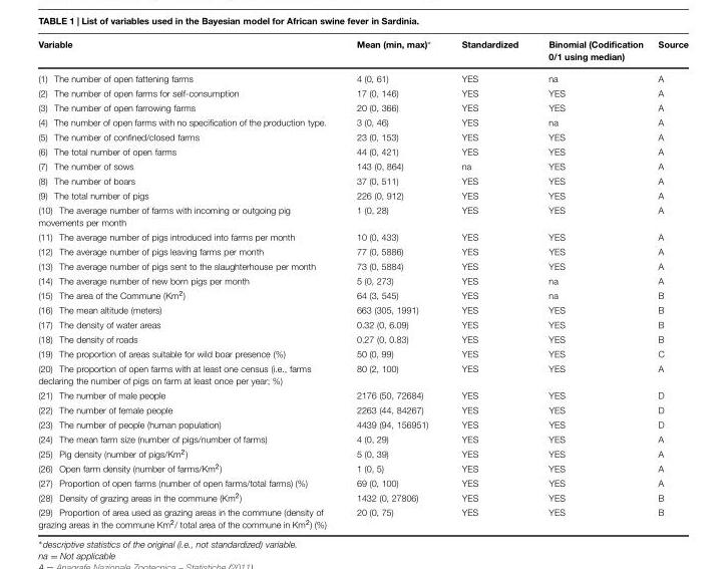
<table><thead><tr><td>Variable</td><td>Mean (min, max)∗</td><td>Standardized</td><td>Binomial (Codification 0/1 using median)</td><td>Source</td></tr></thead><tbody><tr><td>(1) The number of open fattening farms</td><td>4 (0, 61)</td><td>YES</td><td>na</td><td>A</td></tr><tr><td>(2) The number of open farms for self-consumption</td><td>17 (0, 146)</td><td>YES</td><td>YES</td><td>A</td></tr><tr><td>(3) The number of open farrowing farms</td><td>20 (0, 366)</td><td>YES</td><td>YES</td><td>A</td></tr><tr><td>(4) The number of open farms with no specification of the production type.</td><td>3 (0, 46)</td><td>YES</td><td>na</td><td>A</td></tr><tr><td>(5) The number of confined/closed farms</td><td>23 (0, 153)</td><td>YES</td><td>YES</td><td>A</td></tr><tr><td>(6) The total number of open farms</td><td>44 (0, 421)</td><td>YES</td><td>YES</td><td>A</td></tr><tr><td>(7) The number of sows</td><td>143 (0, 864)</td><td>na</td><td>YES</td><td>A</td></tr><tr><td>(8) The number of boars</td><td>37 (0, 511)</td><td>YES</td><td>YES</td><td>A</td></tr><tr><td>(9) The total number of pigs</td><td>226 (0, 912)</td><td>YES</td><td>YES</td><td>A</td></tr><tr><td>(10) The average number of farms with incoming or outgoing pig movements per month</td><td>1 (0, 28)</td><td>YES</td><td>YES</td><td>A</td></tr><tr><td>(11) The average number of pigs introduced into farms per month</td><td>10 (0, 433)</td><td>YES</td><td>YES</td><td>A</td></tr><tr><td>(12) The average number of pigs leaving farms per month</td><td>77 (0, 5886)</td><td>YES</td><td>YES</td><td>A</td></tr><tr><td>(13) The average number of pigs sent to the slaughterhouse per month</td><td>73 (0, 5884)</td><td>YES</td><td>YES</td><td>A</td></tr><tr><td>(14) The average number of new born pigs per month</td><td>5 (0, 273)</td><td>YES</td><td>na</td><td>A</td></tr><tr><td>(15) The area of the Commune (Km<sup>2</sup>)</td><td>64 (3, 545)</td><td>YES</td><td>na</td><td>B</td></tr><tr><td>(16) The mean altitude (meters)</td><td>663 (305, 1991)</td><td>YES</td><td>YES</td><td>B</td></tr><tr><td>(17) The density of water areas</td><td>0.32 (0, 6.09)</td><td>YES</td><td>YES</td><td>B</td></tr><tr><td>(18) The density of roads</td><td>0.27 (0, 0.83)</td><td>YES</td><td>YES</td><td>B</td></tr><tr><td>(19) The proportion of areas suitable for wild boar presence (%)</td><td>50 (0, 99)</td><td>YES</td><td>YES</td><td>C</td></tr><tr><td>(20) The proportion of open farms with at least one census (i.e., farms declaring the number of pigs on farm at least once per year; %)</td><td>80 (2, 100)</td><td>YES</td><td>YES</td><td>A</td></tr><tr><td>(21) The number of male people</td><td>2176 (50, 72684)</td><td>YES</td><td>YES</td><td>D</td></tr><tr><td>(22) The number of female people</td><td>2263 (44, 84267)</td><td>YES</td><td>YES</td><td>D</td></tr><tr><td>(23) The number of people (human population)</td><td>4439 (94, 156951)</td><td>YES</td><td>YES</td><td>D</td></tr><tr><td>(24) The mean farm size (number of pigs/number of farms)</td><td>4 (0, 29)</td><td>YES</td><td>YES</td><td>A</td></tr><tr><td>(25) Pig density (number of pigs/Km<sup>2</sup>)</td><td>5 (0, 39)</td><td>YES</td><td>YES</td><td>A</td></tr><tr><td>(26) Open farm density (number of farms/Km<sup>2</sup>)</td><td>1 (0, 5)</td><td>YES</td><td>YES</td><td>A</td></tr><tr><td>(27) Proportion of open farms (number of open farms/total farms) (%)</td><td>69 (0, 100)</td><td>YES</td><td>YES</td><td>A</td></tr><tr><td>(28) Density of grazing areas in the commune (Km<sup>2</sup>)</td><td>1432 (0, 27806)</td><td>YES</td><td>YES</td><td>B</td></tr><tr><td>(29) Proportion of area used as grazing areas in the commune (density of grazing areas in the commune Km2/ total area of the commune in Km2) (%)</td><td>20 (0, 75)</td><td>YES</td><td>YES</td><td>B</td></tr></tbody></table>